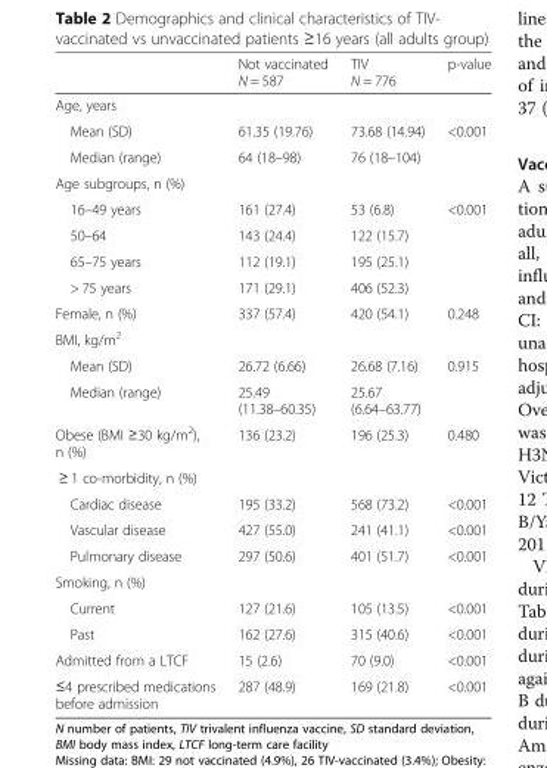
<table><thead><tr><td></td><td>Not vaccinated N = 587</td><td>TIV N = 776</td><td>p-value</td></tr></thead><tbody><tr><td colspan="4">Age, years</td></tr><tr><td>Mean (SD)</td><td>61.35 (19.76)</td><td>73.68 (14.94)</td><td>&lt;0.001</td></tr><tr><td>Median (range)</td><td>64 (18–98)</td><td>76 (18–104)</td><td></td></tr><tr><td colspan="4">Age subgroups, n (%)</td></tr><tr><td>16–49 years</td><td>161 (27.4)</td><td>53 (6.8)</td><td>&lt;0.001</td></tr><tr><td>50–64</td><td>143 (24.4)</td><td>122 (15.7)</td><td></td></tr><tr><td>65–75 years</td><td>112 (19.1)</td><td>195 (25.1)</td><td></td></tr><tr><td>&gt; 75 years</td><td>171 (29.1)</td><td>406 (52.3)</td><td></td></tr><tr><td>Female, n (%)</td><td>337 (57.4)</td><td>420 (54.1)</td><td>0.248</td></tr><tr><td colspan="4">BMI, kg/m<sup>2</sup></td></tr><tr><td>Mean (SD)</td><td>26.72 (6.66)</td><td>26.68 (7.16)</td><td>0.915</td></tr><tr><td>Median (range)</td><td>25.49 (11.38–60.35)</td><td>25.67 (6.64–63.77)</td><td></td></tr><tr><td>Obese (BMI ≥30 kg/m<sup>2</sup>), n (%)</td><td>136 (23.2)</td><td>196 (25.3)</td><td>0.480</td></tr><tr><td colspan="4">≥ 1 co-morbidity, n (%)</td></tr><tr><td>Cardiac disease</td><td>195 (33.2)</td><td>568 (73.2)</td><td>&lt;0.001</td></tr><tr><td>Vascular disease</td><td>427 (55.0)</td><td>241 (41.1)</td><td>&lt;0.001</td></tr><tr><td>Pulmonary disease</td><td>297 (50.6)</td><td>401 (51.7)</td><td>&lt;0.001</td></tr><tr><td colspan="4">Smoking, n (%)</td></tr><tr><td>Current</td><td>127 (21.6)</td><td>105 (13.5)</td><td>&lt;0.001</td></tr><tr><td>Past</td><td>162 (27.6)</td><td>315 (40.6)</td><td>&lt;0.001</td></tr><tr><td>Admitted from a LTCF</td><td>15 (2.6)</td><td>70 (9.0)</td><td>&lt;0.001</td></tr><tr><td>≤4 prescribed medications before admission</td><td>287 (48.9)</td><td>169 (21.8)</td><td>&lt;0.001</td></tr></tbody></table>